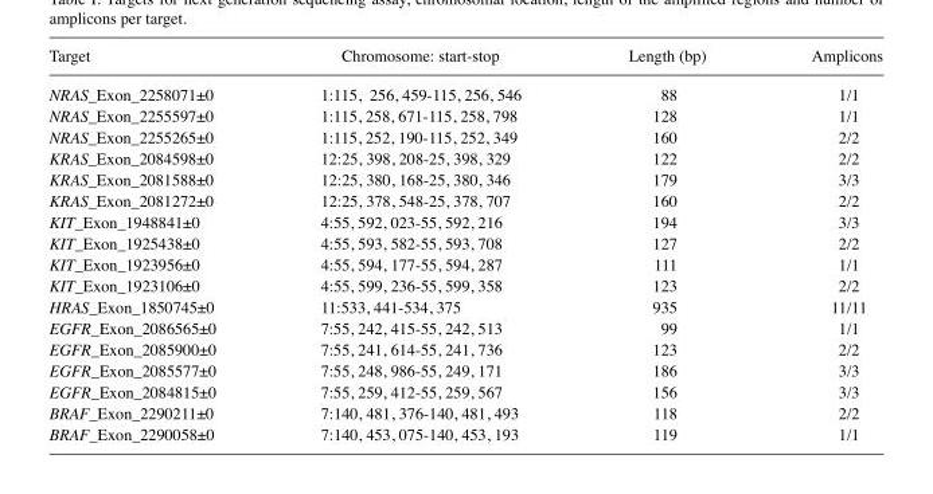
<table><thead><tr><td>Target</td><td>Chromosome: start-stop</td><td>Length (bp)</td><td>Amplicons</td></tr></thead><tbody><tr><td>NRAS_Exon_2258071±0</td><td>1:115, 256, 459-115, 256, 546</td><td>88</td><td>1/1</td></tr><tr><td>NRAS_Exon_2255597±0</td><td>1:115, 258, 671-115, 258, 798</td><td>128</td><td>1/1</td></tr><tr><td>NRAS_Exon_2255265±0</td><td>1:115, 252, 190-115, 252, 349</td><td>160</td><td>2/2</td></tr><tr><td>KRAS_Exon_2084598±0</td><td>12:25, 398, 208-25, 398, 329</td><td>122</td><td>2/2</td></tr><tr><td>KRAS_Exon_2081588±0</td><td>12:25, 380, 168-25, 380, 346</td><td>179</td><td>3/3</td></tr><tr><td>KRAS_Exon_2081272±0</td><td>12:25, 378, 548-25, 378, 707</td><td>160</td><td>2/2</td></tr><tr><td>KIT_Exon_1948841±0</td><td>4:55, 592, 023-55, 592, 216</td><td>194</td><td>3/3</td></tr><tr><td>KIT_Exon_1925438±0</td><td>4:55, 593, 582-55, 593, 708</td><td>127</td><td>2/2</td></tr><tr><td>KIT_Exon_1923956±0</td><td>4:55, 594, 177-55, 594, 287</td><td>111</td><td>1/1</td></tr><tr><td>KIT_Exon_1923106±0</td><td>4:55, 599, 236-55, 599, 358</td><td>123</td><td>2/2</td></tr><tr><td>HRAS_Exon_1850745±0</td><td>11:533, 441-534, 375</td><td>935</td><td>11/11</td></tr><tr><td>EGFR_Exon_2086565±0</td><td>7:55, 242, 415-55, 242, 513</td><td>99</td><td>1/1</td></tr><tr><td>EGFR_Exon_2085900±0</td><td>7:55, 241, 614-55, 241, 736</td><td>123</td><td>2/2</td></tr><tr><td>EGFR_Exon_2085577±0</td><td>7:55, 248, 986-55, 249, 171</td><td>186</td><td>3/3</td></tr><tr><td>EGFR_Exon_2084815±0</td><td>7:55, 259, 412-55, 259, 567</td><td>156</td><td>3/3</td></tr><tr><td>BRAF_Exon_2290211±0</td><td>7:140, 481, 376-140, 481, 493</td><td>118</td><td>2/2</td></tr><tr><td>BRAF_Exon_2290058±0</td><td>7:140, 453, 075-140, 453, 193</td><td>119</td><td>1/1</td></tr></tbody></table>